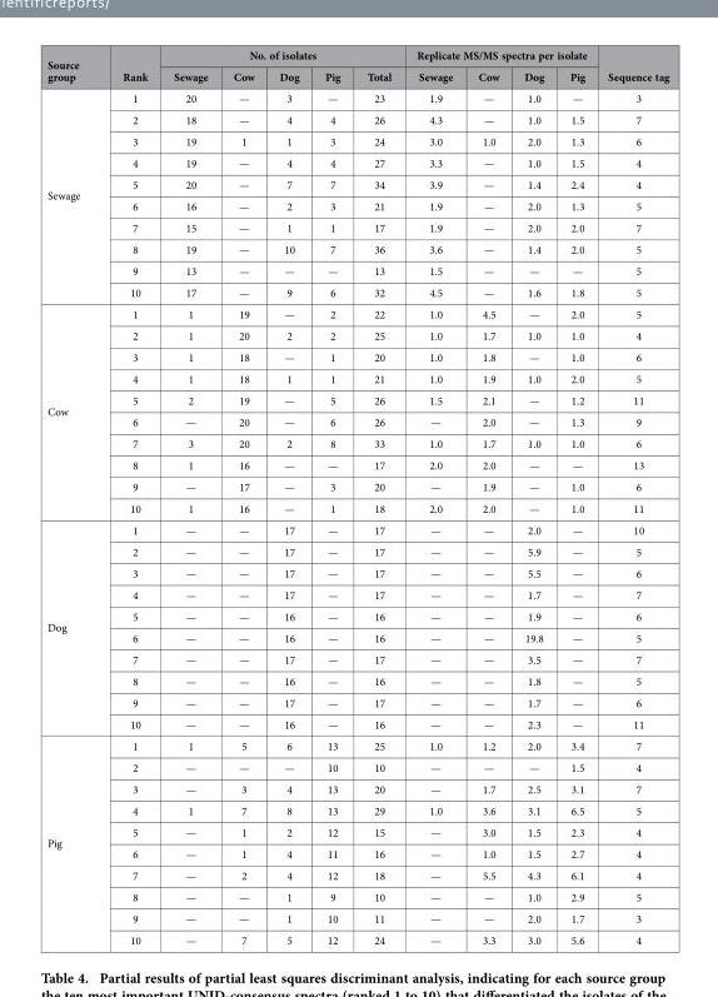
<table><thead><tr><td rowspan="2">Source group</td><td rowspan="2">Rank</td><td colspan="5">No. of isolates</td><td colspan="4">Replicate MS/MS spectra per isolate</td><td rowspan="2">Sequence tag</td></tr><tr><td>Sewage</td><td>Cow</td><td>Dog</td><td>Pig</td><td>Total</td><td>Sewage</td><td>Cow</td><td>Dog</td><td>Pig</td></tr></thead><tbody><tr><td rowspan="10">Sewage</td><td>1</td><td>20</td><td>—</td><td>3</td><td>—</td><td>23</td><td>1.9</td><td>—</td><td>1.0</td><td>—</td><td>3</td></tr><tr><td>2</td><td>18</td><td>—</td><td>4</td><td>4</td><td>26</td><td>4.3</td><td>—</td><td>1.0</td><td>1.5</td><td>7</td></tr><tr><td>3</td><td>19</td><td>1</td><td>1</td><td>3</td><td>24</td><td>3.0</td><td>1.0</td><td>2.0</td><td>1.3</td><td>6</td></tr><tr><td>4</td><td>19</td><td>—</td><td>4</td><td>4</td><td>27</td><td>3.3</td><td>—</td><td>1.0</td><td>1.5</td><td>4</td></tr><tr><td>5</td><td>20</td><td>—</td><td>7</td><td>7</td><td>34</td><td>3.9</td><td>—</td><td>1.4</td><td>2.4</td><td>4</td></tr><tr><td>6</td><td>16</td><td>—</td><td>2</td><td>3</td><td>21</td><td>1.9</td><td>—</td><td>2.0</td><td>1.3</td><td>5</td></tr><tr><td>7</td><td>15</td><td>—</td><td>1</td><td>1</td><td>17</td><td>1.9</td><td>—</td><td>2.0</td><td>2.0</td><td>7</td></tr><tr><td>8</td><td>19</td><td>—</td><td>10</td><td>7</td><td>36</td><td>3.6</td><td>—</td><td>1.4</td><td>2.0</td><td>5</td></tr><tr><td>9</td><td>13</td><td>—</td><td>—</td><td>—</td><td>13</td><td>1.5</td><td>—</td><td>—</td><td>—</td><td>5</td></tr><tr><td>10</td><td>17</td><td>—</td><td>9</td><td>6</td><td>32</td><td>4.5</td><td>—</td><td>1.6</td><td>1.8</td><td>5</td></tr><tr><td rowspan="10">Cow</td><td>1</td><td>1</td><td>19</td><td>—</td><td>2</td><td>22</td><td>1.0</td><td>4.5</td><td>—</td><td>2.0</td><td>5</td></tr><tr><td>2</td><td>1</td><td>20</td><td>2</td><td>2</td><td>25</td><td>1.0</td><td>1.7</td><td>1.0</td><td>1.0</td><td>4</td></tr><tr><td>3</td><td>1</td><td>18</td><td>—</td><td>1</td><td>20</td><td>1.0</td><td>1.8</td><td>—</td><td>1.0</td><td>6</td></tr><tr><td>4</td><td>1</td><td>18</td><td>1</td><td>1</td><td>21</td><td>1.0</td><td>1.9</td><td>1.0</td><td>2.0</td><td>5</td></tr><tr><td>5</td><td>2</td><td>19</td><td>—</td><td>5</td><td>26</td><td>1.5</td><td>2.1</td><td>—</td><td>1.2</td><td>11</td></tr><tr><td>6</td><td>—</td><td>20</td><td>—</td><td>6</td><td>26</td><td>—</td><td>2.0</td><td>—</td><td>1.3</td><td>9</td></tr><tr><td>7</td><td>3</td><td>20</td><td>2</td><td>8</td><td>33</td><td>1.0</td><td>1.7</td><td>1.0</td><td>1.0</td><td>6</td></tr><tr><td>8</td><td>1</td><td>16</td><td>—</td><td>—</td><td>17</td><td>2.0</td><td>2.0</td><td>—</td><td>—</td><td>13</td></tr><tr><td>9</td><td>—</td><td>17</td><td>—</td><td>3</td><td>20</td><td>—</td><td>1.9</td><td>—</td><td>1.0</td><td>6</td></tr><tr><td>10</td><td>1</td><td>16</td><td>—</td><td>1</td><td>18</td><td>2.0</td><td>2.0</td><td>—</td><td>1.0</td><td>11</td></tr><tr><td rowspan="10">Dog</td><td>1</td><td>—</td><td>—</td><td>17</td><td>—</td><td>17</td><td>—</td><td>—</td><td>2.0</td><td>—</td><td>10</td></tr><tr><td>2</td><td>—</td><td>—</td><td>17</td><td>—</td><td>17</td><td>—</td><td>—</td><td>5.9</td><td>—</td><td>5</td></tr><tr><td>3</td><td>—</td><td>—</td><td>17</td><td>—</td><td>17</td><td>—</td><td>—</td><td>5.5</td><td>—</td><td>6</td></tr><tr><td>4</td><td>—</td><td>—</td><td>17</td><td>—</td><td>17</td><td>—</td><td>—</td><td>1.7</td><td>—</td><td>7</td></tr><tr><td>5</td><td>—</td><td>—</td><td>16</td><td>—</td><td>16</td><td>—</td><td>—</td><td>1.9</td><td>—</td><td>6</td></tr><tr><td>6</td><td>—</td><td>—</td><td>16</td><td>—</td><td>16</td><td>—</td><td>—</td><td>19.8</td><td>—</td><td>5</td></tr><tr><td>7</td><td>—</td><td>—</td><td>17</td><td>—</td><td>17</td><td>—</td><td>—</td><td>3.5</td><td>—</td><td>7</td></tr><tr><td>8</td><td>—</td><td>—</td><td>16</td><td>—</td><td>16</td><td>—</td><td>—</td><td>1.8</td><td>—</td><td>5</td></tr><tr><td>9</td><td>—</td><td>—</td><td>17</td><td>—</td><td>17</td><td>—</td><td>—</td><td>1.7</td><td>—</td><td>6</td></tr><tr><td>10</td><td>—</td><td>—</td><td>16</td><td>—</td><td>16</td><td>—</td><td>—</td><td>2.3</td><td>—</td><td>11</td></tr><tr><td rowspan="10">Pig</td><td>1</td><td>1</td><td>5</td><td>6</td><td>13</td><td>25</td><td>1.0</td><td>1.2</td><td>2.0</td><td>3.4</td><td>7</td></tr><tr><td>2</td><td>—</td><td>—</td><td>—</td><td>10</td><td>10</td><td>—</td><td>—</td><td>—</td><td>1.5</td><td>4</td></tr><tr><td>3</td><td>—</td><td>3</td><td>4</td><td>13</td><td>20</td><td>—</td><td>1.7</td><td>2.5</td><td>3.1</td><td>7</td></tr><tr><td>4</td><td>1</td><td>7</td><td>8</td><td>13</td><td>29</td><td>1.0</td><td>3.6</td><td>3.1</td><td>6.5</td><td>5</td></tr><tr><td>5</td><td>—</td><td>1</td><td>2</td><td>12</td><td>15</td><td>—</td><td>3.0</td><td>1.5</td><td>2.3</td><td>4</td></tr><tr><td>6</td><td>—</td><td>1</td><td>4</td><td>11</td><td>16</td><td>—</td><td>1.0</td><td>1.5</td><td>2.7</td><td>4</td></tr><tr><td>7</td><td>—</td><td>2</td><td>4</td><td>12</td><td>18</td><td>—</td><td>5.5</td><td>4.3</td><td>6.1</td><td>4</td></tr><tr><td>8</td><td>—</td><td>—</td><td>1</td><td>9</td><td>10</td><td>—</td><td>—</td><td>1.0</td><td>2.9</td><td>5</td></tr><tr><td>9</td><td>—</td><td>—</td><td>1</td><td>10</td><td>11</td><td>—</td><td>—</td><td>2.0</td><td>1.7</td><td>3</td></tr><tr><td>10</td><td>—</td><td>7</td><td>5</td><td>12</td><td>24</td><td>—</td><td>3.3</td><td>3.0</td><td>5.6</td><td>4</td></tr></tbody></table>